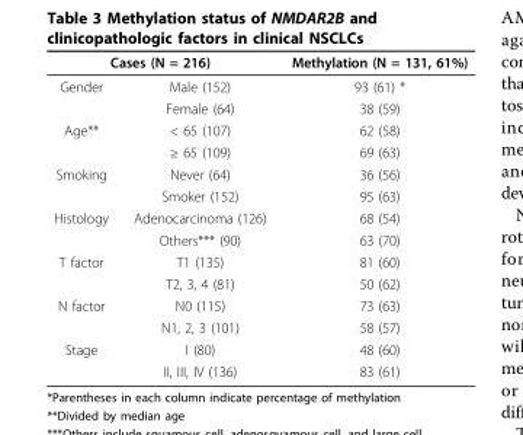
<table><thead><tr><td colspan="2">Cases (N = 216)</td><td rowspan="2">Methylation (N = 131, 61%) 93 (61) *</td></tr><tr><td>Gender</td><td>Male (152)</td></tr></thead><tbody><tr><td></td><td>Female (64)</td><td>38 (59)</td></tr><tr><td rowspan="2">Age**</td><td>&lt; 65 (107)</td><td>62 (58)</td></tr><tr><td>≥ 65 (109)</td><td>69 (63)</td></tr><tr><td rowspan="2">Smoking</td><td>Never (64)</td><td>36 (56)</td></tr><tr><td>Smoker (152)</td><td>95 (63)</td></tr><tr><td rowspan="2">Histology</td><td>Adenocarcinoma (126)</td><td>68 (54)</td></tr><tr><td>Others*** (90)</td><td>63 (70)</td></tr><tr><td rowspan="2">T factor</td><td>T1 (135)</td><td>81 (60)</td></tr><tr><td>T2, 3, 4 (81)</td><td>50 (62)</td></tr><tr><td rowspan="2">N factor</td><td>N0 (115)</td><td>73 (63)</td></tr><tr><td>N1, 2, 3 (101)</td><td>58 (57)</td></tr><tr><td rowspan="2">Stage</td><td>I (80)</td><td>48 (60)</td></tr><tr><td>II, III, IV (136)</td><td>83 (61)</td></tr></tbody></table>